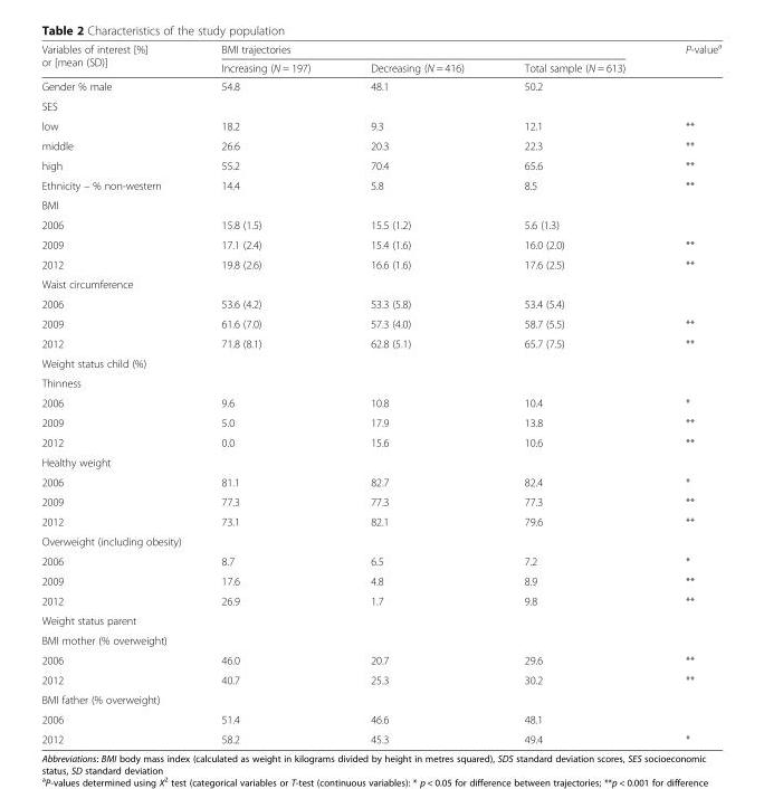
<table><thead><tr><td rowspan="2">Variables of interest [%] or [mean (SD)]</td><td colspan="3">BMI trajectories</td><td rowspan="2">P-value<sup>a</sup></td></tr><tr><td>Increasing (N = 197)</td><td>Decreasing (N = 416)</td><td>Total sample (N = 613)</td></tr></thead><tbody><tr><td>Gender % male</td><td>54.8</td><td>48.1</td><td>50.2</td><td></td></tr><tr><td colspan="5">SES</td></tr><tr><td>low</td><td>18.2</td><td>9.3</td><td>12.1</td><td>**</td></tr><tr><td>middle</td><td>26.6</td><td>20.3</td><td>22.3</td><td>**</td></tr><tr><td>high</td><td>55.2</td><td>70.4</td><td>65.6</td><td>**</td></tr><tr><td>Ethnicity – % non-western</td><td>14.4</td><td>5.8</td><td>8.5</td><td>**</td></tr><tr><td colspan="5">BMI</td></tr><tr><td>2006</td><td>15.8 (1.5)</td><td>15.5 (1.2)</td><td>5.6 (1.3)</td><td></td></tr><tr><td>2009</td><td>17.1 (2.4)</td><td>15.4 (1.6)</td><td>16.0 (2.0)</td><td>**</td></tr><tr><td>2012</td><td>19.8 (2.6)</td><td>16.6 (1.6)</td><td>17.6 (2.5)</td><td>**</td></tr><tr><td colspan="5">Waist circumference</td></tr><tr><td>2006</td><td>53.6 (4.2)</td><td>53.3 (5.8)</td><td>53.4 (5.4)</td><td></td></tr><tr><td>2009</td><td>61.6 (7.0)</td><td>57.3 (4.0)</td><td>58.7 (5.5)</td><td>**</td></tr><tr><td>2012</td><td>71.8 (8.1)</td><td>62.8 (5.1)</td><td>65.7 (7.5)</td><td>**</td></tr><tr><td colspan="5">Weight status child (%)</td></tr><tr><td colspan="5">Thinness</td></tr><tr><td>2006</td><td>9.6</td><td>10.8</td><td>10.4</td><td>*</td></tr><tr><td>2009</td><td>5.0</td><td>17.9</td><td>13.8</td><td>**</td></tr><tr><td>2012</td><td>0.0</td><td>15.6</td><td>10.6</td><td>**</td></tr><tr><td colspan="5">Healthy weight</td></tr><tr><td>2006</td><td>81.1</td><td>82.7</td><td>82.4</td><td>*</td></tr><tr><td>2009</td><td>77.3</td><td>77.3</td><td>77.3</td><td>**</td></tr><tr><td>2012</td><td>73.1</td><td>82.1</td><td>79.6</td><td>**</td></tr><tr><td colspan="5">Overweight (including obesity)</td></tr><tr><td>2006</td><td>8.7</td><td>6.5</td><td>7.2</td><td>*</td></tr><tr><td>2009</td><td>17.6</td><td>4.8</td><td>8.9</td><td>**</td></tr><tr><td>2012</td><td>26.9</td><td>1.7</td><td>9.8</td><td>**</td></tr><tr><td colspan="5">Weight status parent</td></tr><tr><td colspan="5">BMI mother (% overweight)</td></tr><tr><td>2006</td><td>46.0</td><td>20.7</td><td>29.6</td><td>**</td></tr><tr><td>2012</td><td>40.7</td><td>25.3</td><td>30.2</td><td>**</td></tr><tr><td colspan="5">BMI father (% overweight)</td></tr><tr><td>2006</td><td>51.4</td><td>46.6</td><td>48.1</td><td></td></tr><tr><td>2012</td><td>58.2</td><td>45.3</td><td>49.4</td><td>*</td></tr></tbody></table>